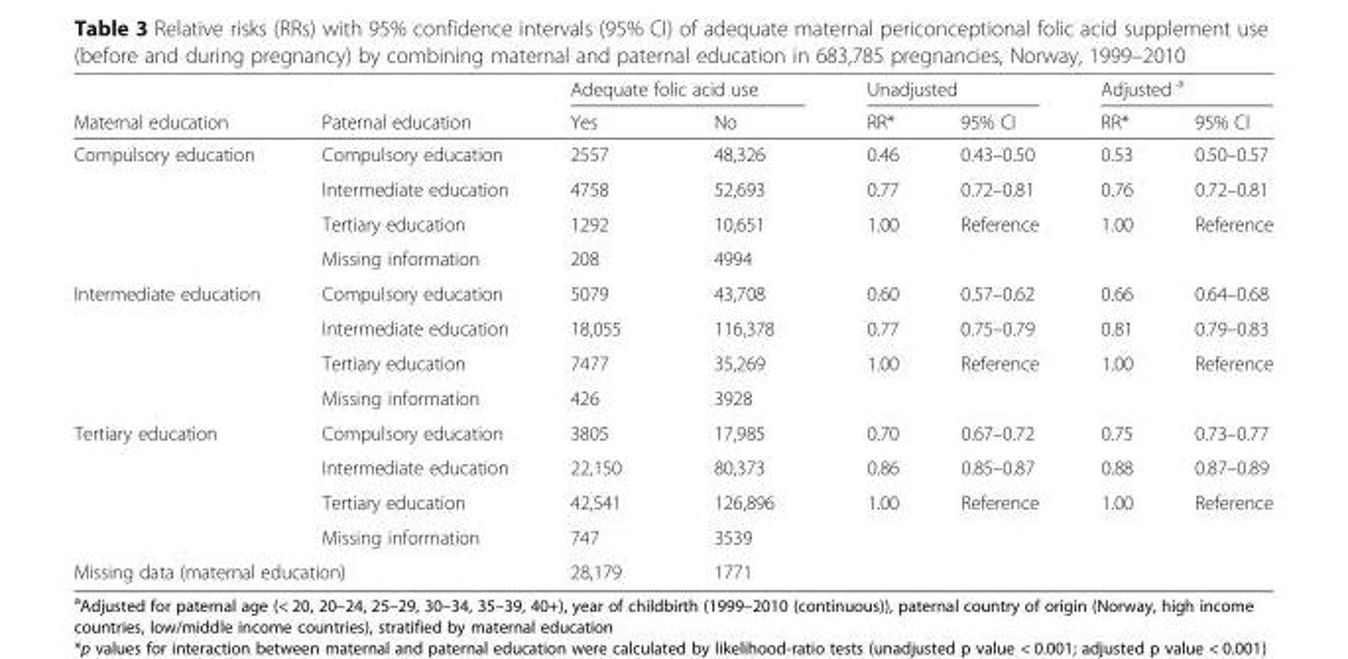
<table><thead><tr><td rowspan="2">Maternal education</td><td rowspan="2">Paternal education</td><td colspan="2">Adequate folic acid use</td><td colspan="2">Unadjusted</td><td colspan="2">Adjusted <sup>a</sup></td></tr><tr><td>Yes</td><td>No</td><td>RR*</td><td>95% CI</td><td>RR*</td><td>95% CI</td></tr></thead><tbody><tr><td rowspan="4">Compulsory education</td><td>Compulsory education</td><td>2557</td><td>48,326</td><td>0.46</td><td>0.43–0.50</td><td>0.53</td><td>0.50–0.57</td></tr><tr><td>Intermediate education</td><td>4758</td><td>52,693</td><td>0.77</td><td>0.72–0.81</td><td>0.76</td><td>0.72–0.81</td></tr><tr><td>Tertiary education</td><td>1292</td><td>10,651</td><td>1.00</td><td>Reference</td><td>1.00</td><td>Reference</td></tr><tr><td>Missing information</td><td>208</td><td>4994</td><td></td><td></td><td></td><td></td></tr><tr><td rowspan="4">Intermediate education</td><td>Compulsory education</td><td>5079</td><td>43,708</td><td>0.60</td><td>0.57–0.62</td><td>0.66</td><td>0.64–0.68</td></tr><tr><td>Intermediate education</td><td>18,055</td><td>116,378</td><td>0.77</td><td>0.75–0.79</td><td>0.81</td><td>0.79–0.83</td></tr><tr><td>Tertiary education</td><td>7477</td><td>35,269</td><td>1.00</td><td>Reference</td><td>1.00</td><td>Reference</td></tr><tr><td>Missing information</td><td>426</td><td>3928</td><td></td><td></td><td></td><td></td></tr><tr><td rowspan="4">Tertiary education</td><td>Compulsory education</td><td>3805</td><td>17,985</td><td>0.70</td><td>0.67–0.72</td><td>0.75</td><td>0.73–0.77</td></tr><tr><td>Intermediate education</td><td>22,150</td><td>80,373</td><td>0.86</td><td>0.85–0.87</td><td>0.88</td><td>0.87–0.89</td></tr><tr><td>Tertiary education</td><td>42,541</td><td>126,896</td><td>1.00</td><td>Reference</td><td>1.00</td><td>Reference</td></tr><tr><td>Missing information</td><td>747</td><td>3539</td><td></td><td></td><td></td><td></td></tr><tr><td colspan="2">Missing data (maternal education)</td><td>28,179</td><td>1771</td><td></td><td></td><td></td><td></td></tr></tbody></table>